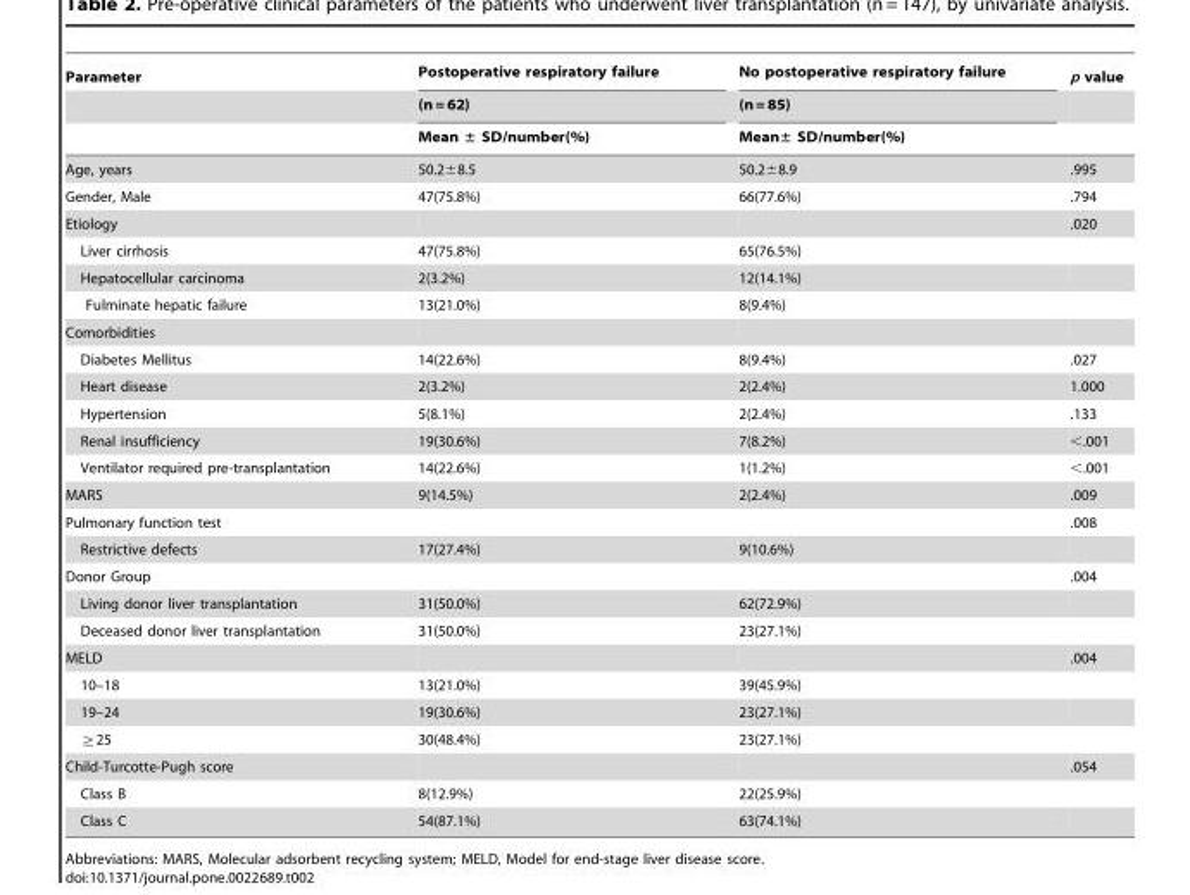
<table><thead><tr><td rowspan="3">Parameter</td><td rowspan="3">Postoperative respiratory failure (n = 62) Mean ± SD/number(%)</td><td rowspan="3">No postoperative respiratory failure (n = 85) Mean± SD/number(%)</td><td rowspan="3">p value</td></tr><tr></tr><tr></tr></thead><tbody><tr><td>Age, years</td><td>50.2±8.5</td><td>50.2±8.9</td><td>.995</td></tr><tr><td>Gender, Male</td><td>47(75.8%)</td><td>66(77.6%)</td><td>.794</td></tr><tr><td>Etiology</td><td></td><td></td><td>.020</td></tr><tr><td>Liver cirrhosis</td><td>47(75.8%)</td><td>65(76.5%)</td><td></td></tr><tr><td>Hepatocellular carcinoma</td><td>2(3.2%)</td><td>12(14.1%)</td><td></td></tr><tr><td>Fulminate hepatic failure</td><td>13(21.0%)</td><td>8(9.4%)</td><td></td></tr><tr><td colspan="4">Comorbidities</td></tr><tr><td>Diabetes Mellitus</td><td>14(22.6%)</td><td>8(9.4%)</td><td>.027</td></tr><tr><td>Heart disease</td><td>2(3.2%)</td><td>2(2.4%)</td><td>1.000</td></tr><tr><td>Hypertension</td><td>5(8.1%)</td><td>2(2.4%)</td><td>.133</td></tr><tr><td>Renal insufficiency</td><td>19(30.6%)</td><td>7(8.2%)</td><td>&lt;.001</td></tr><tr><td>Ventilator required pre-transplantation</td><td>14(22.6%)</td><td>1(1.2%)</td><td>&lt;.001</td></tr><tr><td>MARS</td><td>9(14.5%)</td><td>2(2.4%)</td><td>.009</td></tr><tr><td>Pulmonary function test</td><td></td><td></td><td>.008</td></tr><tr><td>Restrictive defects</td><td>17(27.4%)</td><td>9(10.6%)</td><td></td></tr><tr><td>Donor Group</td><td></td><td></td><td>.004</td></tr><tr><td>Living donor liver transplantation</td><td>31(50.0%)</td><td>62(72.9%)</td><td></td></tr><tr><td>Deceased donor liver transplantation</td><td>31(50.0%)</td><td>23(27.1%)</td><td></td></tr><tr><td>MELD</td><td></td><td></td><td>.004</td></tr><tr><td>10–18</td><td>13(21.0%)</td><td>39(45.9%)</td><td></td></tr><tr><td>19–24</td><td>19(30.6%)</td><td>23(27.1%)</td><td></td></tr><tr><td>≧25</td><td>30(48.4%)</td><td>23(27.1%)</td><td></td></tr><tr><td>Child-Turcotte-Pugh score</td><td></td><td></td><td>.054</td></tr><tr><td>Class B</td><td>8(12.9%)</td><td>22(25.9%)</td><td></td></tr><tr><td>Class C</td><td>54(87.1%)</td><td>63(74.1%)</td><td></td></tr></tbody></table>